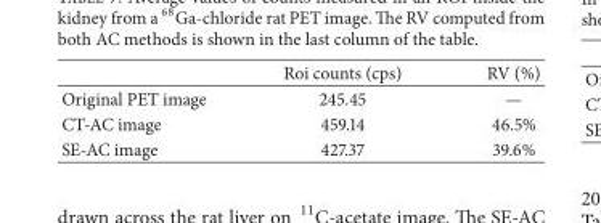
<table><thead><tr><td></td><td>Roi counts (cps)</td><td>RV (%)</td></tr></thead><tbody><tr><td>Original PET image</td><td>245.45</td><td>—</td></tr><tr><td>CT-AC image</td><td>459.14</td><td>46.5%</td></tr><tr><td>SE-AC image</td><td>427.37</td><td>39.6%</td></tr></tbody></table>